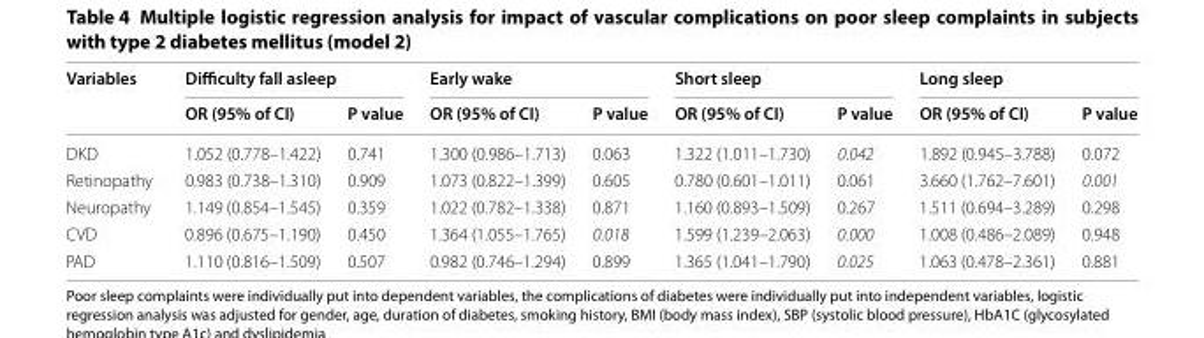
<table><thead><tr><td rowspan="2">Variables</td><td colspan="2">Difficulty fall asleep</td><td colspan="2">Early wake</td><td colspan="2">Short sleep</td><td colspan="2">Long sleep</td></tr><tr><td>OR (95% of CI)</td><td>P value</td><td>OR (95% of CI)</td><td>P value</td><td>OR (95% of CI)</td><td>P value</td><td>OR (95% of CI)</td><td>P value</td></tr></thead><tbody><tr><td>DKD</td><td>1.052 (0.778–1.422)</td><td>0.741</td><td>1.300 (0.986–1.713)</td><td>0.063</td><td>1.322 (1.011–1.730)</td><td>0.042</td><td>1.892 (0.945–3.788)</td><td>0.072</td></tr><tr><td>Retinopathy</td><td>0.983 (0.738–1.310)</td><td>0.909</td><td>1.073 (0.822–1.399)</td><td>0.605</td><td>0.780 (0.601–1.011)</td><td>0.061</td><td>3.660 (1.762–7.601)</td><td>0.001</td></tr><tr><td>Neuropathy</td><td>1.149 (0.854–1.545)</td><td>0.359</td><td>1.022 (0.782–1.338)</td><td>0.871</td><td>1.160 (0.893–1.509)</td><td>0.267</td><td>1.511 (0.694–3.289)</td><td>0.298</td></tr><tr><td>CVD</td><td>0.896 (0.675–1.190)</td><td>0.450</td><td>1.364 (1.055–1.765)</td><td>0.018</td><td>1.599 (1.239–2.063)</td><td>0.000</td><td>1.008 (0.486–2.089)</td><td>0.948</td></tr><tr><td>PAD</td><td>1.110 (0.816–1.509)</td><td>0.507</td><td>0.982 (0.746–1.294)</td><td>0.899</td><td>1.365 (1.041–1.790)</td><td>0.025</td><td>1.063 (0.478–2.361)</td><td>0.881</td></tr></tbody></table>